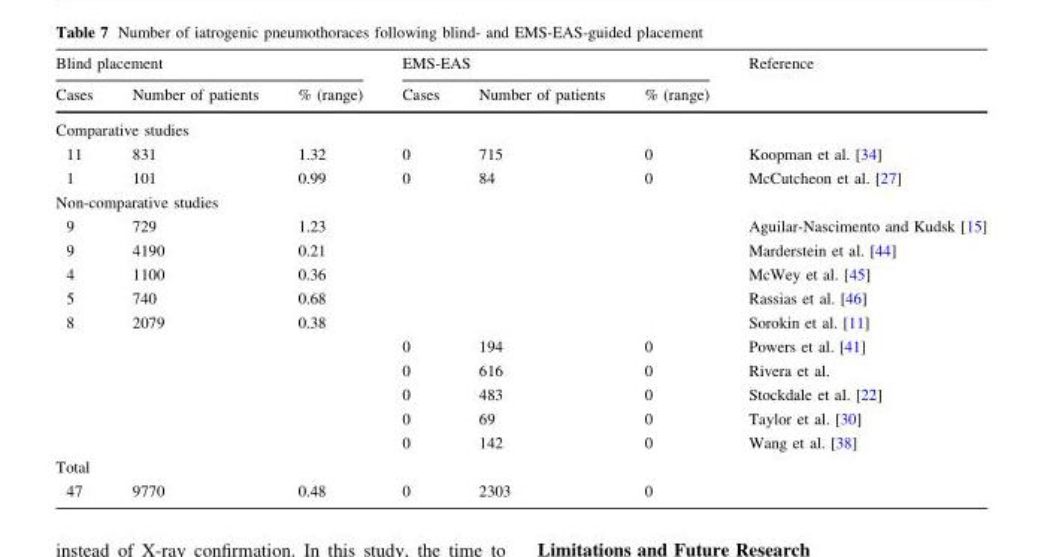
<table><thead><tr><td colspan="3">Blind placement</td><td colspan="3">EMS-EAS</td><td rowspan="2">Reference</td></tr><tr><td>Cases</td><td>Number of patients</td><td>% (range)</td><td>Cases</td><td>Number of patients</td><td>% (range)</td></tr></thead><tbody><tr><td colspan="7">Comparative studies</td></tr><tr><td>11</td><td>831</td><td>1.32</td><td>0</td><td>715</td><td>0</td><td>Koopman et al. [34]</td></tr><tr><td>1</td><td>101</td><td>0.99</td><td>0</td><td>84</td><td>0</td><td>McCutcheon et al. [27]</td></tr><tr><td colspan="7">Non-comparative studies</td></tr><tr><td>9</td><td>729</td><td>1.23</td><td></td><td></td><td></td><td>Aguilar-Nascimento and Kudsk [15]</td></tr><tr><td>9</td><td>4190</td><td>0.21</td><td></td><td></td><td></td><td>Marderstein et al. [44]</td></tr><tr><td>4</td><td>1100</td><td>0.36</td><td></td><td></td><td></td><td>McWey et al. [45]</td></tr><tr><td>5</td><td>740</td><td>0.68</td><td></td><td></td><td></td><td>Rassias et al. [46]</td></tr><tr><td rowspan="6">8</td><td>2079</td><td>0.38</td><td></td><td></td><td></td><td>Sorokin et al. [11]</td></tr><tr><td></td><td></td><td>0</td><td>194</td><td>0</td><td>Powers et al. [41]</td></tr><tr><td></td><td></td><td>0</td><td>616</td><td>0</td><td>Rivera et al.</td></tr><tr><td></td><td></td><td>0</td><td>483</td><td>0</td><td>Stockdale et al. [22]</td></tr><tr><td></td><td></td><td>0</td><td>69</td><td>0</td><td>Taylor et al. [30]</td></tr><tr><td></td><td></td><td>0</td><td>142</td><td>0</td><td>Wang et al. [38]</td></tr><tr><td colspan="7">Total</td></tr><tr><td>47</td><td>9770</td><td>0.48</td><td>0</td><td>2303</td><td>0</td><td></td></tr></tbody></table>